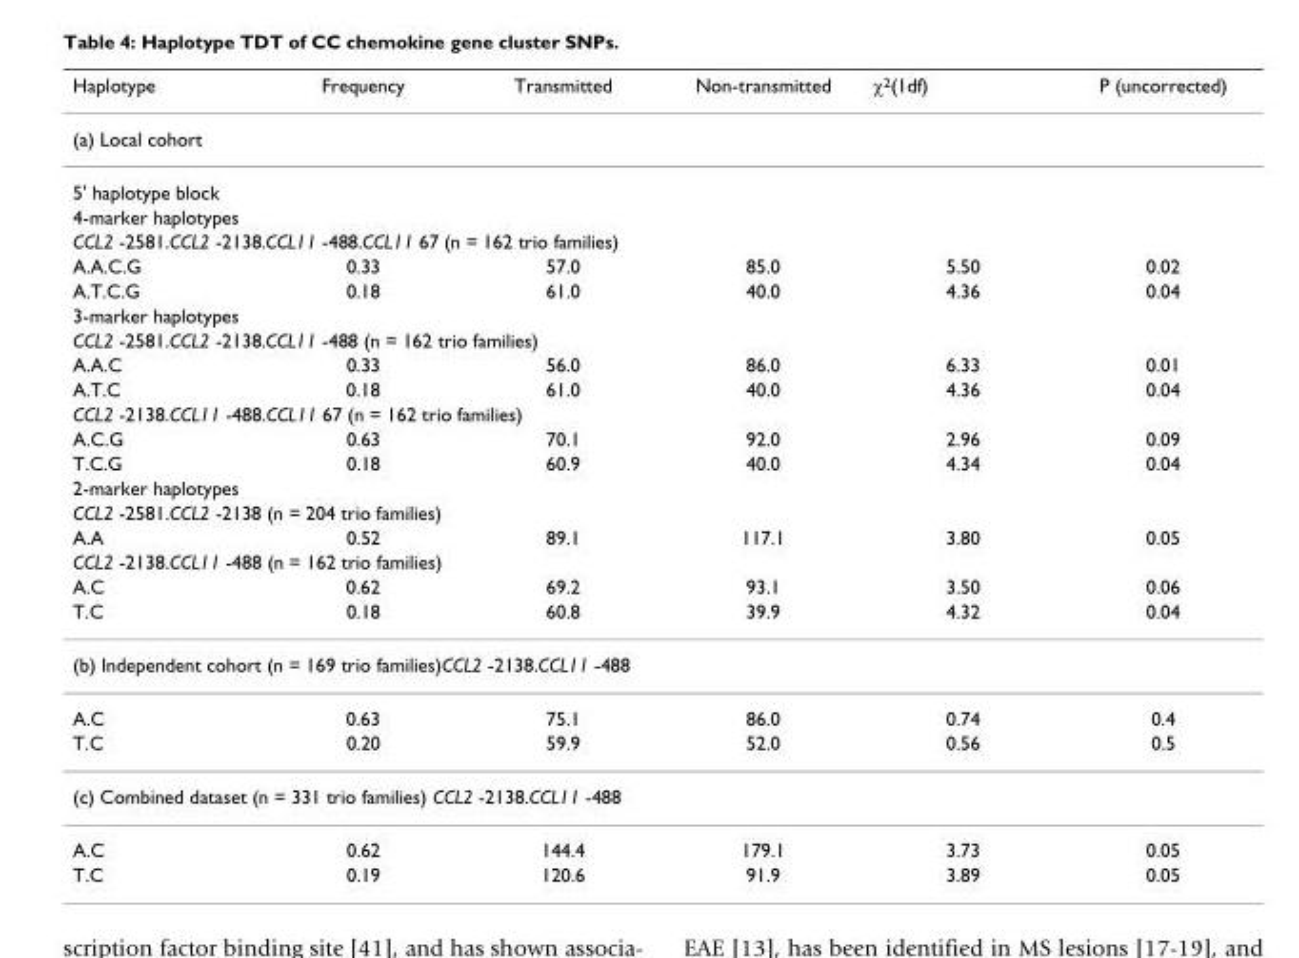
<table><thead><tr><td>Haplotype</td><td>Frequency</td><td>Transmitted</td><td>Non-transmitted</td><td>χ<sup>2</sup>(1df)</td><td>P (uncorrected)</td></tr></thead><tbody><tr><td colspan="6">(a) Local cohort</td></tr><tr><td colspan="6">5&#x27; haplotype block</td></tr><tr><td colspan="6">4-marker haplotypes</td></tr><tr><td colspan="6">CCL2 -2581.CCL2 -2138.CCL11 -488.CCL11 67 (n = 162 trio families)</td></tr><tr><td>A.A.C.G</td><td>0.33</td><td>57.0</td><td>85.0</td><td>5.50</td><td>0.02</td></tr><tr><td>A.T.C.G</td><td>0.18</td><td>61.0</td><td>40.0</td><td>4.36</td><td>0.04</td></tr><tr><td colspan="6">3-marker haplotypes</td></tr><tr><td colspan="6">CCL2 -2581.CCL2 -2138.CCL11 -488 (n = 162 trio families)</td></tr><tr><td>A.A.C</td><td>0.33</td><td>56.0</td><td>86.0</td><td>6.33</td><td>0.01</td></tr><tr><td>A.T.C</td><td>0.18</td><td>61.0</td><td>40.0</td><td>4.36</td><td>0.04</td></tr><tr><td colspan="6">CCL2 -2138.CCL11 -488.CCL11 67 (n = 162 trio families)</td></tr><tr><td>A.C.G</td><td>0.63</td><td>70.1</td><td>92.0</td><td>2.96</td><td>0.09</td></tr><tr><td>T.C.G</td><td>0.18</td><td>60.9</td><td>40.0</td><td>4.34</td><td>0.04</td></tr><tr><td colspan="6">2-marker haplotypes</td></tr><tr><td colspan="6">CCL2 -2581.CCL2 -2138 (n = 204 trio families)</td></tr><tr><td>A.A</td><td>0.52</td><td>89.1</td><td>117.1</td><td>3.80</td><td>0.05</td></tr><tr><td colspan="6">CCL2 -2138.CCL11 -488 (n = 162 trio families)</td></tr><tr><td>A.C</td><td>0.62</td><td>69.2</td><td>93.1</td><td>3.50</td><td>0.06</td></tr><tr><td>T.C</td><td>0.18</td><td>60.8</td><td>39.9</td><td>4.32</td><td>0.04</td></tr><tr><td colspan="6">(b) Independent cohort (n = 169 trio families)CCL2 -2138.CCL11 -488</td></tr><tr><td>A.C</td><td>0.63</td><td>75.1</td><td>86.0</td><td>0.74</td><td>0.4</td></tr><tr><td>T.C</td><td>0.20</td><td>59.9</td><td>52.0</td><td>0.56</td><td>0.5</td></tr><tr><td colspan="6">(c) Combined dataset (n = 331 trio families) CCL2 -2138.CCL11 -488</td></tr><tr><td>A.C</td><td>0.62</td><td>144.4</td><td>179.1</td><td>3.73</td><td>0.05</td></tr><tr><td>T.C</td><td>0.19</td><td>120.6</td><td>91.9</td><td>3.89</td><td>0.05</td></tr></tbody></table>